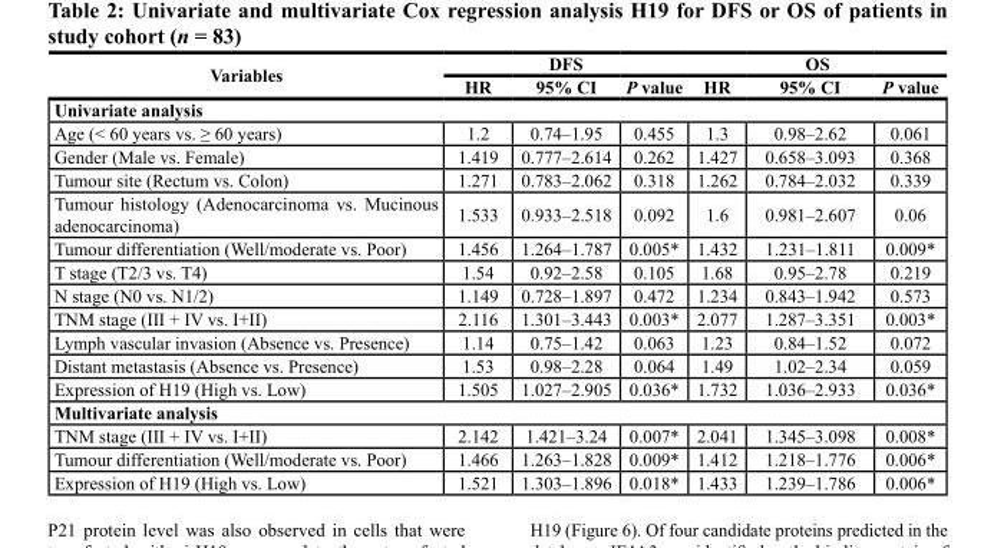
<table><thead><tr><td rowspan="2">Variables</td><td colspan="3">DFS</td><td colspan="3">OS</td></tr><tr><td>HR</td><td>95% CI</td><td>P value</td><td>HR</td><td>95% CI</td><td>P value</td></tr></thead><tbody><tr><td colspan="7">Univariate analysis</td></tr><tr><td>Age (&lt; 60 years vs. ≥ 60 years)</td><td>1.2</td><td>0.74–1.95</td><td>0.455</td><td>1.3</td><td>0.98–2.62</td><td>0.061</td></tr><tr><td>Gender (Male vs. Female)</td><td>1.419</td><td>0.777–2.614</td><td>0.262</td><td>1.427</td><td>0.658–3.093</td><td>0.368</td></tr><tr><td>Tumour site (Rectum vs. Colon)</td><td>1.271</td><td>0.783–2.062</td><td>0.318</td><td>1.262</td><td>0.784–2.032</td><td>0.339</td></tr><tr><td>Tumour histology (Adenocarcinoma vs. Mucinous adenocarcinoma)</td><td>1.533</td><td>0.933–2.518</td><td>0.092</td><td>1.6</td><td>0.981–2.607</td><td>0.06</td></tr><tr><td>Tumour differentiation (Well/moderate vs. Poor)</td><td>1.456</td><td>1.264–1.787</td><td>0.005*</td><td>1.432</td><td>1.231–1.811</td><td>0.009*</td></tr><tr><td>T stage (T2/3 vs. T4)</td><td>1.54</td><td>0.92–2.58</td><td>0.105</td><td>1.68</td><td>0.95–2.78</td><td>0.219</td></tr><tr><td>N stage (N0 vs. N1/2)</td><td>1.149</td><td>0.728–1.897</td><td>0.472</td><td>1.234</td><td>0.843–1.942</td><td>0.573</td></tr><tr><td>TNM stage (III + IV vs. I+II)</td><td>2.116</td><td>1.301–3.443</td><td>0.003*</td><td>2.077</td><td>1.287–3.351</td><td>0.003*</td></tr><tr><td>Lymph vascular invasion (Absence vs. Presence)</td><td>1.14</td><td>0.75–1.42</td><td>0.063</td><td>1.23</td><td>0.84–1.52</td><td>0.072</td></tr><tr><td>Distant metastasis (Absence vs. Presence)</td><td>1.53</td><td>0.98–2.28</td><td>0.064</td><td>1.49</td><td>1.02–2.34</td><td>0.059</td></tr><tr><td>Expression of H19 (High vs. Low)</td><td>1.505</td><td>1.027–2.905</td><td>0.036*</td><td>1.732</td><td>1.036–2.933</td><td>0.036*</td></tr><tr><td colspan="7">Multivariate analysis</td></tr><tr><td>TNM stage (III + IV vs. I+II)</td><td>2.142</td><td>1.421–3.24</td><td>0.007*</td><td>2.041</td><td>1.345–3.098</td><td>0.008*</td></tr><tr><td>Tumour differentiation (Well/moderate vs. Poor)</td><td>1.466</td><td>1.263–1.828</td><td>0.009*</td><td>1.412</td><td>1.218–1.776</td><td>0.006*</td></tr><tr><td>Expression of H19 (High vs. Low)</td><td>1.521</td><td>1.303–1.896</td><td>0.018*</td><td>1.433</td><td>1.239–1.786</td><td>0.006*</td></tr></tbody></table>